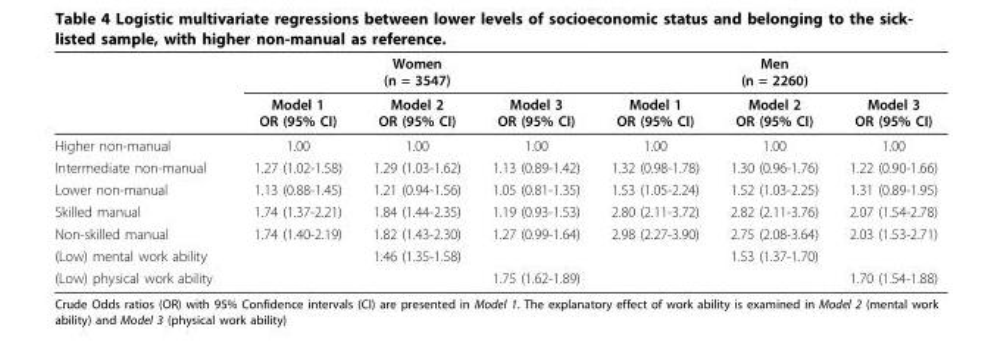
<table><thead><tr><td rowspan="2"></td><td colspan="3">Women (n = 3547)</td><td colspan="3">Men (n = 2260)</td></tr><tr><td>Model 1 OR (95% CI)</td><td>Model 2 OR (95% CI)</td><td>Model 3 OR (95% CI)</td><td>Model 1 OR (95% CI)</td><td>Model 2 OR (95% CI)</td><td>Model 3 OR (95% CI)</td></tr></thead><tbody><tr><td>Higher non-manual</td><td>1.00</td><td>1.00</td><td>1.00</td><td>1.00</td><td>1.00</td><td>1.00</td></tr><tr><td>Intermediate non-manual</td><td>1.27 (1.02-1.58)</td><td>1.29 (1.03-1.62)</td><td>1.13 (0.89-1.42)</td><td>1.32 (0.98-1.78)</td><td>1.30 (0.96-1.76)</td><td>1.22 (0.90-1.66)</td></tr><tr><td>Lower non-manual</td><td>1.13 (0.88-1.45)</td><td>1.21 (0.94-1.56)</td><td>1.05 (0.81-1.35)</td><td>1.53 (1.05-2.24)</td><td>1.52 (1.03-2.25)</td><td>1.31 (0.89-1.95)</td></tr><tr><td>Skilled manual</td><td>1.74 (1.37-2.21)</td><td>1.84 (1.44-2.35)</td><td>1.19 (0.93-1.53)</td><td>2.80 (2.11-3.72)</td><td>2.82 (2.11-3.76)</td><td>2.07 (1.54-2.78)</td></tr><tr><td>Non-skilled manual</td><td>1.74 (1.40-2.19)</td><td>1.82 (1.43-2.30)</td><td>1.27 (0.99-1.64)</td><td>2.98 (2.27-3.90)</td><td>2.75 (2.08-3.64)</td><td>2.03 (1.53-2.71)</td></tr><tr><td>(Low) mental work ability</td><td></td><td>1.46 (1.35-1.58)</td><td></td><td></td><td>1.53 (1.37-1.70)</td><td></td></tr><tr><td>(Low) physical work ability</td><td></td><td></td><td>1.75 (1.62-1.89)</td><td></td><td></td><td>1.70 (1.54-1.88)</td></tr></tbody></table>